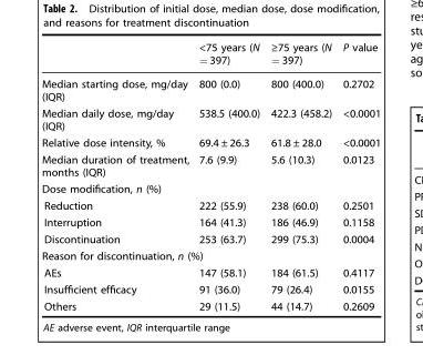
<table><thead><tr><td></td><td>&lt;75 years (N = 397)</td><td>≥75 years (N = 397)</td><td>P value</td></tr></thead><tbody><tr><td>Median starting dose, mg/day (IQR)</td><td>800 (0.0)</td><td>800 (400.0)</td><td>0.2702</td></tr><tr><td>Median daily dose, mg/day (IQR)</td><td>538.5 (400.0)</td><td>422.3 (458.2)</td><td>&lt;0.0001</td></tr><tr><td>Relative dose intensity, %</td><td>69.4 ± 26.3</td><td>61.8 ± 28.0</td><td>&lt;0.0001</td></tr><tr><td>Median duration of treatment, months (IQR)</td><td>7.6 (9.9)</td><td>5.6 (10.3)</td><td>0.0123</td></tr><tr><td colspan="4">Dose modification, n (%)</td></tr><tr><td>Reduction</td><td>222 (55.9)</td><td>238 (60.0)</td><td>0.2501</td></tr><tr><td>Interruption</td><td>164 (41.3)</td><td>186 (46.9)</td><td>0.1158</td></tr><tr><td>Discontinuation</td><td>253 (63.7)</td><td>299 (75.3)</td><td>0.0004</td></tr><tr><td colspan="4">Reason for discontinuation, n (%)</td></tr><tr><td>AEs</td><td>147 (58.1)</td><td>184 (61.5)</td><td>0.4117</td></tr><tr><td>Insufficient efficacy</td><td>91 (36.0)</td><td>79 (26.4)</td><td>0.0155</td></tr><tr><td>Others</td><td>29 (11.5)</td><td>44 (14.7)</td><td>0.2609</td></tr></tbody></table>